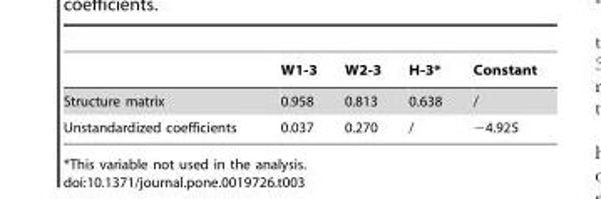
<table><thead><tr><td></td><td>W1-3</td><td>W2-3</td><td>H-3*</td><td>Constant</td></tr></thead><tbody><tr><td>Structure matrix</td><td>0.958</td><td>0.813</td><td>0.638</td><td>/</td></tr><tr><td>Unstandardized coefficients</td><td>0.037</td><td>0.270</td><td>/</td><td>−4.925</td></tr></tbody></table>